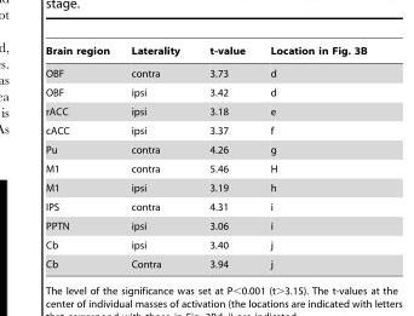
<table><thead><tr><td>Brain region</td><td>Laterality</td><td>t-value</td><td>Location in Fig. 3B</td></tr></thead><tbody><tr><td>OBF</td><td>contra</td><td>3.73</td><td>d</td></tr><tr><td>OBF</td><td>ipsi</td><td>3.42</td><td>d</td></tr><tr><td>rACC</td><td>ipsi</td><td>3.18</td><td>e</td></tr><tr><td>cACC</td><td>ipsi</td><td>3.37</td><td>f</td></tr><tr><td>Pu</td><td>contra</td><td>4.26</td><td>g</td></tr><tr><td>M1</td><td>contra</td><td>5.46</td><td>H</td></tr><tr><td>M1</td><td>ipsi</td><td>3.19</td><td>h</td></tr><tr><td>IPS</td><td>contra</td><td>4.31</td><td>i</td></tr><tr><td>PPTN</td><td>ipsi</td><td>3.06</td><td>i</td></tr><tr><td>Cb</td><td>ipsi</td><td>3.40</td><td>j</td></tr><tr><td>Cb</td><td>Contra</td><td>3.94</td><td>j</td></tr></tbody></table>